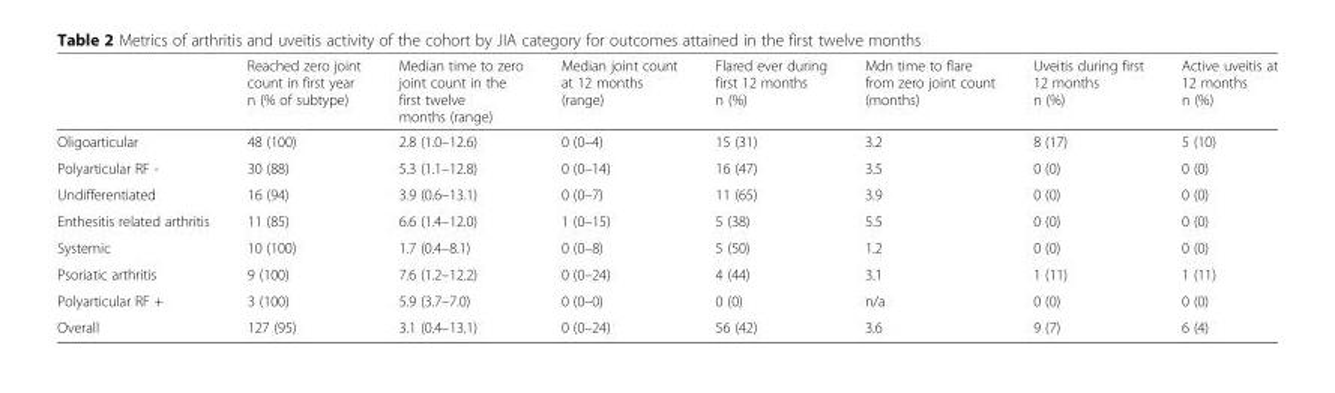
<table><thead><tr><td></td><td>Reached zero joint count in first year n (% of subtype)</td><td>Median time to zero joint count in the first twelve months (range)</td><td>Median joint count at 12 months (range)</td><td>Flared ever during first 12 months n (%)</td><td>Mdn time to flare from zero joint count (months)</td><td>Uveitis during first 12 months n (%)</td><td>Active uveitis at 12 months n (%)</td></tr></thead><tbody><tr><td>Oligoarticular</td><td>48 (100)</td><td>2.8 (1.0–12.6)</td><td>0 (0–4)</td><td>15 (31)</td><td>3.2</td><td>8 (17)</td><td>5 (10)</td></tr><tr><td>Polyarticular RF -</td><td>30 (88)</td><td>5.3 (1.1–12.8)</td><td>0 (0–14)</td><td>16 (47)</td><td>3.5</td><td>0 (0)</td><td>0 (0)</td></tr><tr><td>Undifferentiated</td><td>16 (94)</td><td>3.9 (0.6–13.1)</td><td>0 (0–7)</td><td>11 (65)</td><td>3.9</td><td>0 (0)</td><td>0 (0)</td></tr><tr><td>Enthesitis related arthritis</td><td>11 (85)</td><td>6.6 (1.4–12.0)</td><td>1 (0–15)</td><td>5 (38)</td><td>5.5</td><td>0 (0)</td><td>0 (0)</td></tr><tr><td>Systemic</td><td>10 (100)</td><td>1.7 (0.4–8.1)</td><td>0 (0–8)</td><td>5 (50)</td><td>1.2</td><td>0 (0)</td><td>0 (0)</td></tr><tr><td>Psoriatic arthritis</td><td>9 (100)</td><td>7.6 (1.2–12.2)</td><td>0 (0–24)</td><td>4 (44)</td><td>3.1</td><td>1 (11)</td><td>1 (11)</td></tr><tr><td>Polyarticular RF +</td><td>3 (100)</td><td>5.9 (3.7–7.0)</td><td>0 (0–0)</td><td>0 (0)</td><td>n/a</td><td>0 (0)</td><td>0 (0)</td></tr><tr><td>Overall</td><td>127 (95)</td><td>3.1 (0.4–13.1)</td><td>0 (0–24)</td><td>56 (42)</td><td>3.6</td><td>9 (7)</td><td>6 (4)</td></tr></tbody></table>